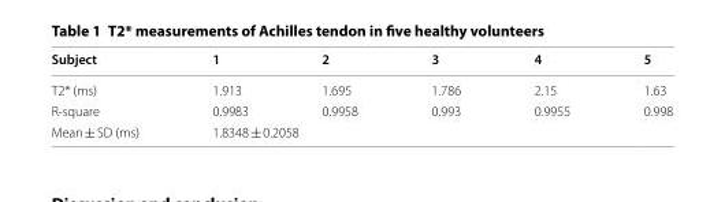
<table><thead><tr><td>Subject</td><td>1</td><td>2</td><td>3</td><td>4</td><td>5</td></tr></thead><tbody><tr><td>T2* (ms)</td><td>1.913</td><td>1.695</td><td>1.786</td><td>2.15</td><td>1.63</td></tr><tr><td>R-square</td><td>0.9983</td><td>0.9958</td><td>0.993</td><td>0.9955</td><td>0.998</td></tr><tr><td>Mean ± SD (ms)</td><td colspan="5">1.8348 ± 0.2058</td></tr></tbody></table>